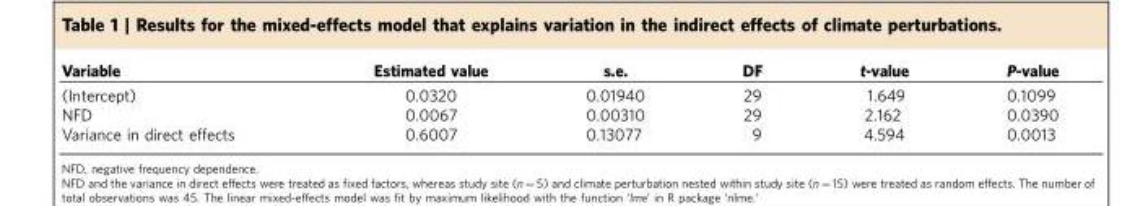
<table><thead><tr><td>Variable</td><td>Estimated value</td><td>s.e.</td><td>DF</td><td>t-value</td><td>P-value</td></tr></thead><tbody><tr><td>(Intercept)</td><td>0.0320</td><td>0.01940</td><td>29</td><td>1.649</td><td>0.1099</td></tr><tr><td>NFD</td><td>0.0067</td><td>0.00310</td><td>29</td><td>2.162</td><td>0.0390</td></tr><tr><td>Variance in direct effects</td><td>0.6007</td><td>0.13077</td><td>9</td><td>4.594</td><td>0.0013</td></tr></tbody></table>